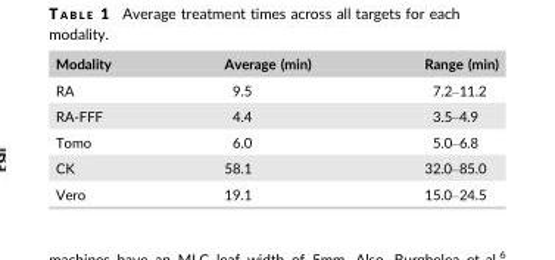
<table><thead><tr><td>Modality</td><td>Average (min)</td><td>Range (min)</td></tr></thead><tbody><tr><td>RA</td><td>9.5</td><td>7.2–11.2</td></tr><tr><td>RA-FFF</td><td>4.4</td><td>3.5–4.9</td></tr><tr><td>Tomo</td><td>6.0</td><td>5.0–6.8</td></tr><tr><td>CK</td><td>58.1</td><td>32.0–85.0</td></tr><tr><td>Vero</td><td>19.1</td><td>15.0–24.5</td></tr></tbody></table>